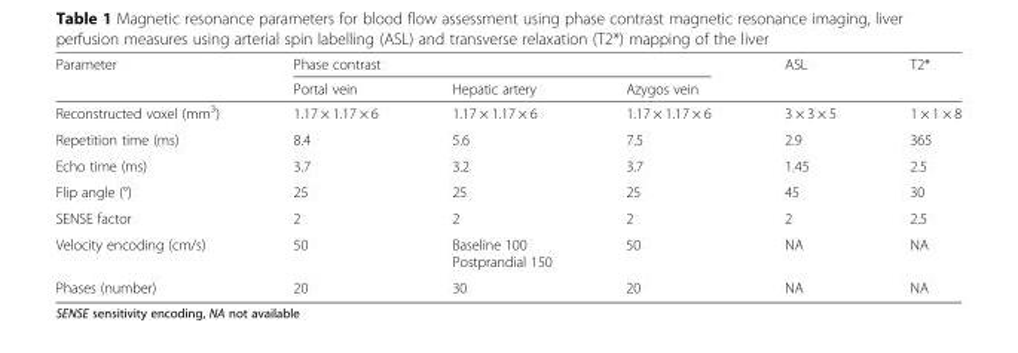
<table><thead><tr><td rowspan="2">Parameter</td><td colspan="3">Phase contrast</td><td rowspan="2">ASL</td><td rowspan="2">T2*</td></tr><tr><td>Portal vein</td><td>Hepatic artery</td><td>Azygos vein</td></tr></thead><tbody><tr><td>Reconstructed voxel (mm<sup>3</sup>)</td><td>1.17 × 1.17 × 6</td><td>1.17 × 1.17 × 6</td><td>1.17 × 1.17 × 6</td><td>3 × 3 × 5</td><td>1 × 1 × 8</td></tr><tr><td>Repetition time (ms)</td><td>8.4</td><td>5.6</td><td>7.5</td><td>2.9</td><td>365</td></tr><tr><td>Echo time (ms)</td><td>3.7</td><td>3.2</td><td>3.7</td><td>1.45</td><td>2.5</td></tr><tr><td>Flip angle (°)</td><td>25</td><td>25</td><td>25</td><td>45</td><td>30</td></tr><tr><td>SENSE factor</td><td>2</td><td>2</td><td>2</td><td>2</td><td>2.5</td></tr><tr><td>Velocity encoding (cm/s)</td><td>50</td><td>Baseline 100 Postprandial 150</td><td>50</td><td>NA</td><td>NA</td></tr><tr><td>Phases (number)</td><td>20</td><td>30</td><td>20</td><td>NA</td><td>NA</td></tr></tbody></table>